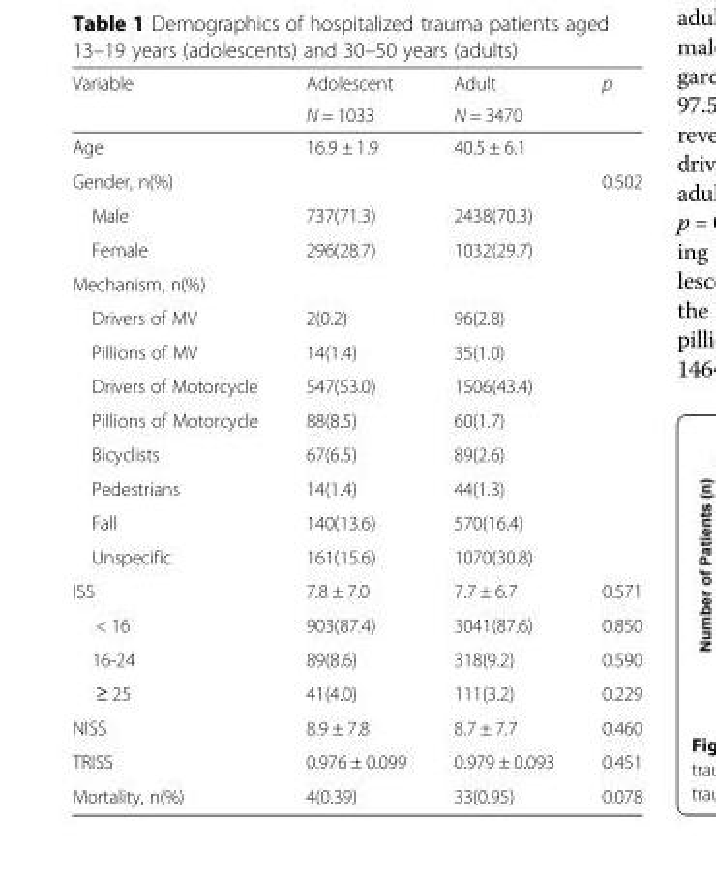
<table><thead><tr><td rowspan="2">Variable</td><td rowspan="2">Adolescent N = 1033</td><td rowspan="2">Adult N = 3470</td><td rowspan="2">p</td></tr><tr></tr></thead><tbody><tr><td>Age</td><td>16.9 ± 1.9</td><td>40.5 ± 6.1</td><td></td></tr><tr><td>Gender, n(%)</td><td></td><td></td><td>0.502</td></tr><tr><td>Male</td><td>737(71.3)</td><td>2438(70.3)</td><td></td></tr><tr><td>Female</td><td>296(28.7)</td><td>1032(29.7)</td><td></td></tr><tr><td colspan="4">Mechanism, n(%)</td></tr><tr><td>Drivers of MV</td><td>2(0.2)</td><td>96(2.8)</td><td></td></tr><tr><td>Pillions of MV</td><td>14(1.4)</td><td>35(1.0)</td><td></td></tr><tr><td>Drivers of Motorcycle</td><td>547(53.0)</td><td>1506(43.4)</td><td></td></tr><tr><td>Pillions of Motorcycle</td><td>88(8.5)</td><td>60(1.7)</td><td></td></tr><tr><td>Bicyclists</td><td>67(6.5)</td><td>89(2.6)</td><td></td></tr><tr><td>Pedestrians</td><td>14(1.4)</td><td>44(1.3)</td><td></td></tr><tr><td>Fall</td><td>140(13.6)</td><td>570(16.4)</td><td></td></tr><tr><td>Unspecific</td><td>161(15.6)</td><td>1070(30.8)</td><td></td></tr><tr><td>ISS</td><td>7.8 ± 7.0</td><td>7.7 ± 6.7</td><td>0.571</td></tr><tr><td>&lt; 16</td><td>903(87.4)</td><td>3041(87.6)</td><td>0.850</td></tr><tr><td>16-24</td><td>89(8.6)</td><td>318(9.2)</td><td>0.590</td></tr><tr><td>≥ 25</td><td>41(4.0)</td><td>111(3.2)</td><td>0.229</td></tr><tr><td>NISS</td><td>8.9 ± 7.8</td><td>8.7 ± 7.7</td><td>0.460</td></tr><tr><td>TRISS</td><td>0.976 ± 0.099</td><td>0.979 ± 0.093</td><td>0.451</td></tr><tr><td>Mortality, n(%)</td><td>4(0.39)</td><td>33(0.95)</td><td>0.078</td></tr></tbody></table>